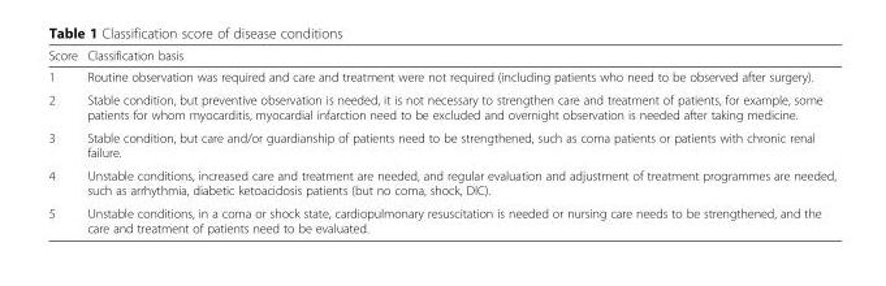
<table><thead><tr><td>Score</td><td>Classification basis</td></tr></thead><tbody><tr><td>1</td><td>Routine observation was required and care and treatment were not required (including patients who need to be observed after surgery).</td></tr><tr><td>2</td><td>Stable condition, but preventive observation is needed, it is not necessary to strengthen care and treatment of patients, for example, some patients for whom myocarditis, myocardial infarction need to be excluded and overnight observation is needed after taking medicine.</td></tr><tr><td>3</td><td>Stable condition, but care and/or guardianship of patients need to be strengthened, such as coma patients or patients with chronic renal failure.</td></tr><tr><td>4</td><td>Unstable conditions, increased care and treatment are needed, and regular evaluation and adjustment of treatment programmes are needed, such as arrhythmia, diabetic ketoacidosis patients (but no coma, shock, DIC).</td></tr><tr><td>5</td><td>Unstable conditions, in a coma or shock state, cardiopulmonary resuscitation is needed or nursing care needs to be strengthened, and the care and treatment of patients need to be evaluated.</td></tr></tbody></table>